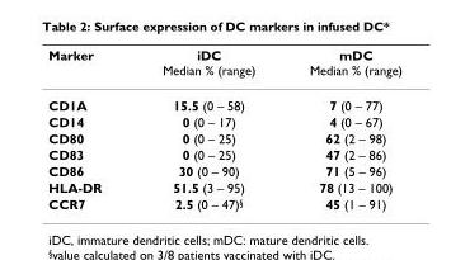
<table><thead><tr><td>Marker</td><td>iDC Median % (range)</td><td>mDC Median % (range)</td></tr></thead><tbody><tr><td>CD1A</td><td>15.5 (0 – 58)</td><td>7 (0 – 77)</td></tr><tr><td>CD14</td><td>0 (0 – 17)</td><td>4 (0 – 67)</td></tr><tr><td>CD80</td><td>0 (0 – 25)</td><td>62 (2 – 98)</td></tr><tr><td>CD83</td><td>0 (0 – 25)</td><td>47 (2 – 86)</td></tr><tr><td>CD86</td><td>30 (0 – 90)</td><td>71 (5 – 96)</td></tr><tr><td>HLA-DR</td><td>51.5 (3 – 95)</td><td>78 (13 – 100)</td></tr><tr><td>CCR7</td><td>2.5 (0 – 47)<sup>§</sup></td><td>45 (1 – 91)</td></tr></tbody></table>